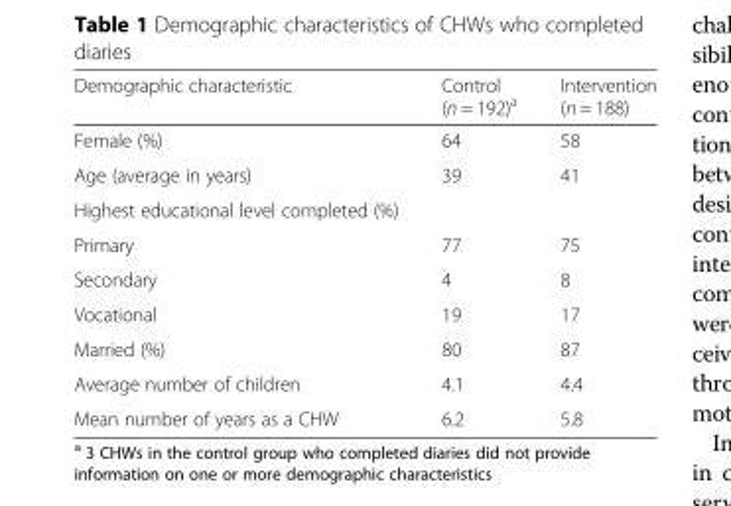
<table><thead><tr><td>Demographic characteristic</td><td>Control (n = 192)<sup>a</sup></td><td>Intervention (n = 188)</td></tr></thead><tbody><tr><td>Female (%)</td><td>64</td><td>58</td></tr><tr><td>Age (average in years)</td><td>39</td><td>41</td></tr><tr><td colspan="3">Highest educational level completed (%)</td></tr><tr><td>Primary</td><td>77</td><td>75</td></tr><tr><td>Secondary</td><td>4</td><td>8</td></tr><tr><td>Vocational</td><td>19</td><td>17</td></tr><tr><td>Married (%)</td><td>80</td><td>87</td></tr><tr><td>Average number of children</td><td>4.1</td><td>4.4</td></tr><tr><td>Mean number of years as a CHW</td><td>6.2</td><td>5.8</td></tr></tbody></table>